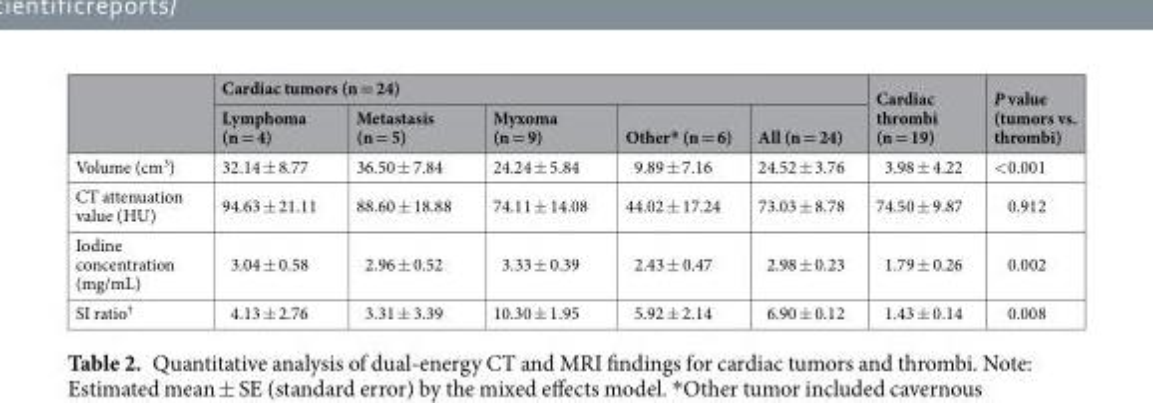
<table><thead><tr><td rowspan="2"></td><td colspan="5">Cardiac tumors (n = 24)</td><td rowspan="2">Cardiac thrombi (n = 19)</td><td rowspan="2">P value (tumors vs. thrombi)</td></tr><tr><td>Lymphoma (n = 4)</td><td>Metastasis (n = 5)</td><td>Myxoma (n = 9)</td><td>Other* (n = 6)</td><td>All (n = 24)</td></tr></thead><tbody><tr><td>Volume (cm<sup>3</sup>)</td><td>32.14 ± 8.77</td><td>36.50 ± 7.84</td><td>24.24 ± 5.84</td><td>9.89 ± 7.16</td><td>24.52 ± 3.76</td><td>3.98 ± 4.22</td><td>&lt;0.001</td></tr><tr><td>CT attenuation value (HU)</td><td>94.63 ± 21.11</td><td>88.60 ± 18.88</td><td>74.11 ± 14.08</td><td>44.02 ± 17.24</td><td>73.03 ± 8.78</td><td>74.50 ± 9.87</td><td>0.912</td></tr><tr><td>Iodine concentration (mg/mL)</td><td>3.04 ± 0.58</td><td>2.96 ± 0.52</td><td>3.33 ± 0.39</td><td>2.43 ± 0.47</td><td>2.98 ± 0.23</td><td>1.79 ± 0.26</td><td>0.002</td></tr><tr><td>SI ratio<sup>†</sup></td><td>4.13 ± 2.76</td><td>3.31 ± 3.39</td><td>10.30 ± 1.95</td><td>5.92 ± 2.14</td><td>6.90 ± 0.12</td><td>1.43 ± 0.14</td><td>0.008</td></tr></tbody></table>